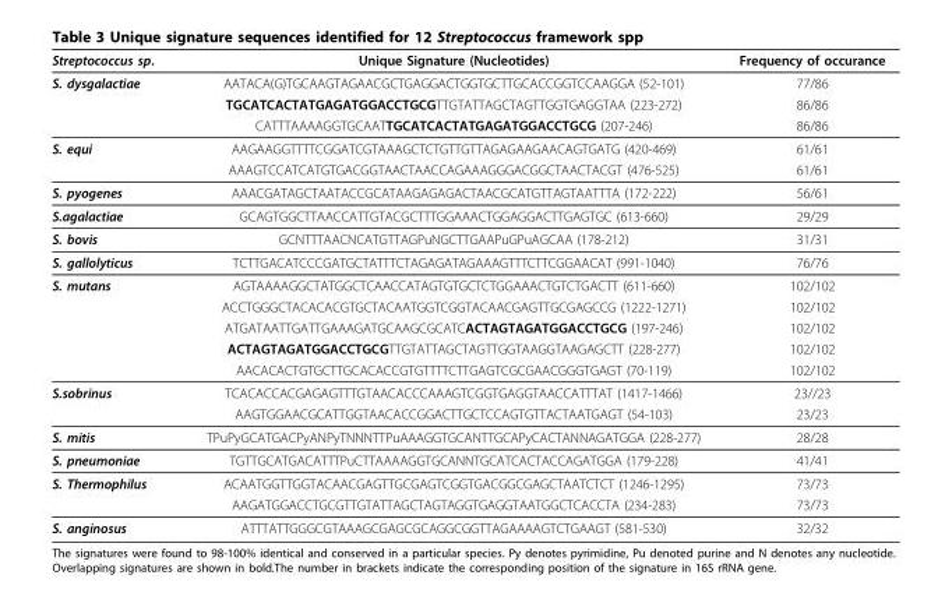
<table><thead><tr><td>Streptococcus sp.</td><td>Unique Signature (Nucleotides)</td><td>Frequency of occurance</td></tr></thead><tbody><tr><td rowspan="3">S. dysgalactiae</td><td>AATACA(G)TGCAAGTAGAACGCTGAGGACTGGTGCTTGCACCGGTCCAAGGA (52-101)</td><td>77/86</td></tr><tr><td>TGCATCACTATGAGATGGACCTGCGTTGTATTAGCTAGTTGGTGAGGTAA (223-272)</td><td>86/86</td></tr><tr><td>CATTTAAAAGGTGCAATTGCATCACTATGAGATGGACCTGCG (207-246)</td><td>86/86</td></tr><tr><td rowspan="2">S. equi</td><td>AAGAAGGTTTTCGGATCGTAAAGCTCTGTTGTTAGAGAAGAACAGTGATG (420-469)</td><td>61/61</td></tr><tr><td>AAAGTCCATCATGTGACGGTAACTAACCAGAAAGGGACGGCTAACTACGT (476-525)</td><td>61/61</td></tr><tr><td>S. pyogenes</td><td>AAACGATAGCTAATACCGCATAAGAGAGACTAACGCATGTTAGTAATTTA (172-222)</td><td>56/61</td></tr><tr><td>S.agalactiae</td><td>GCAGTGGCTTAACCATTGTACGCTTTGGAAACTGGAGGACTTGAGTGC (613-660)</td><td>29/29</td></tr><tr><td>S. bovis</td><td>GCNTTTAACNCATGTTAGPuNGCTTGAAPuGPuAGCAA (178-212)</td><td>31/31</td></tr><tr><td>S. gallolyticus</td><td>TCTTGACATCCCGATGCTATTTCTAGAGATAGAAAGTTTCTTCGGAACAT (991-1040)</td><td>76/76</td></tr><tr><td rowspan="5">S. mutans</td><td>AGTAAAAGGCTATGGCTCAACCATAGTGTGCTCTGGAAACTGTCTGACTT (611-660)</td><td>102/102</td></tr><tr><td>ACCTGGGCTACACACGTGCTACAATGGTCGGTACAACGAGTTGCGAGCCG (1222-1271)</td><td>102/102</td></tr><tr><td>ATGATAATTGATTGAAAGATGCAAGCGCATCACTAGTAGATGGACCTGCG (197-246)</td><td>102/102</td></tr><tr><td>ACTAGTAGATGGACCTGCGTTGTATTAGCTAGTTGGTAAGGTAAGAGCTT (228-277)</td><td>102/102</td></tr><tr><td>AACACACTGTGCTTGCACACCGTGTTTTCTTGAGTCGCGAACGGGTGAGT (70-119)</td><td>102/102</td></tr><tr><td rowspan="2">S.sobrinus</td><td>TCACACCACGAGAGTTTGTAACACCCAAAGTCGGTGAGGTAACCATTTAT (1417-1466)</td><td>23//23</td></tr><tr><td>AAGTGGAACGCATTGGTAACACCGGACTTGCTCCAGTGTTACTAATGAGT (54-103)</td><td>23/23</td></tr><tr><td>S. mitis</td><td>TPuPyGCATGACPyANPyTNNNTTPuAAAGGTGCANTTGCAPyCACTANNAGATGGA (228-277)</td><td>28/28</td></tr><tr><td>S. pneumoniae</td><td>TGTTGCATGACATTTPuCTTAAAAGGTGCANNTGCATCACTACCAGATGGA (179-228)</td><td>41/41</td></tr><tr><td rowspan="2">S. Thermophilus</td><td>ACAATGGTTGGTACAACGAGTTGCGAGTCGGTGACGGCGAGCTAATCTCT (1246-1295)</td><td>73/73</td></tr><tr><td>AAGATGGACCTGCGTTGTATTAGCTAGTAGGTGAGGTAATGGCTCACCTA (234-283)</td><td>73/73</td></tr><tr><td>S. anginosus</td><td>ATTTATTGGGCGTAAAGCGAGCGCAGGCGGTTAGAAAAGTCTGAAGT (581-530)</td><td>32/32</td></tr></tbody></table>